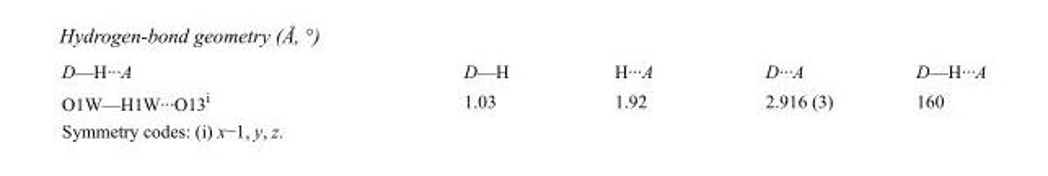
<table><tbody><tr><td>D—H···A</td><td>D—H</td><td>H···A</td><td>D···A</td><td>D—H···A</td></tr><tr><td>O1W—H1W···O13<sup>i</sup></td><td>1.03</td><td>1.92</td><td>2.916 (3)</td><td>160</td></tr></tbody></table>